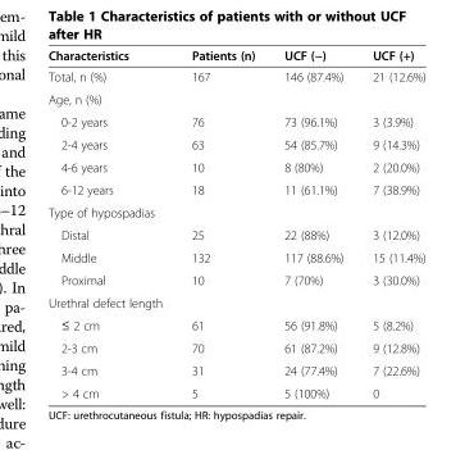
<table><thead><tr><td>Characteristics</td><td>Patients (n)</td><td>UCF (−)</td><td>UCF (+)</td></tr></thead><tbody><tr><td>Total, n (%)</td><td>167</td><td>146 (87.4%)</td><td>21 (12.6%)</td></tr><tr><td colspan="4">Age, n (%)</td></tr><tr><td>0-2 years</td><td>76</td><td>73 (96.1%)</td><td>3 (3.9%)</td></tr><tr><td>2-4 years</td><td>63</td><td>54 (85.7%)</td><td>9 (14.3%)</td></tr><tr><td>4-6 years</td><td>10</td><td>8 (80%)</td><td>2 (20.0%)</td></tr><tr><td>6-12 years</td><td>18</td><td>11 (61.1%)</td><td>7 (38.9%)</td></tr><tr><td colspan="4">Type of hypospadias</td></tr><tr><td>Distal</td><td>25</td><td>22 (88%)</td><td>3 (12.0%)</td></tr><tr><td>Middle</td><td>132</td><td>117 (88.6%)</td><td>15 (11.4%)</td></tr><tr><td>Proximal</td><td>10</td><td>7 (70%)</td><td>3 (30.0%)</td></tr><tr><td colspan="4">Urethral defect length</td></tr><tr><td>≤ 2 cm</td><td>61</td><td>56 (91.8%)</td><td>5 (8.2%)</td></tr><tr><td>2-3 cm</td><td>70</td><td>61 (87.2%)</td><td>9 (12.8%)</td></tr><tr><td>3-4 cm</td><td>31</td><td>24 (77.4%)</td><td>7 (22.6%)</td></tr><tr><td>&gt; 4 cm</td><td>5</td><td>5 (100%)</td><td>0</td></tr></tbody></table>